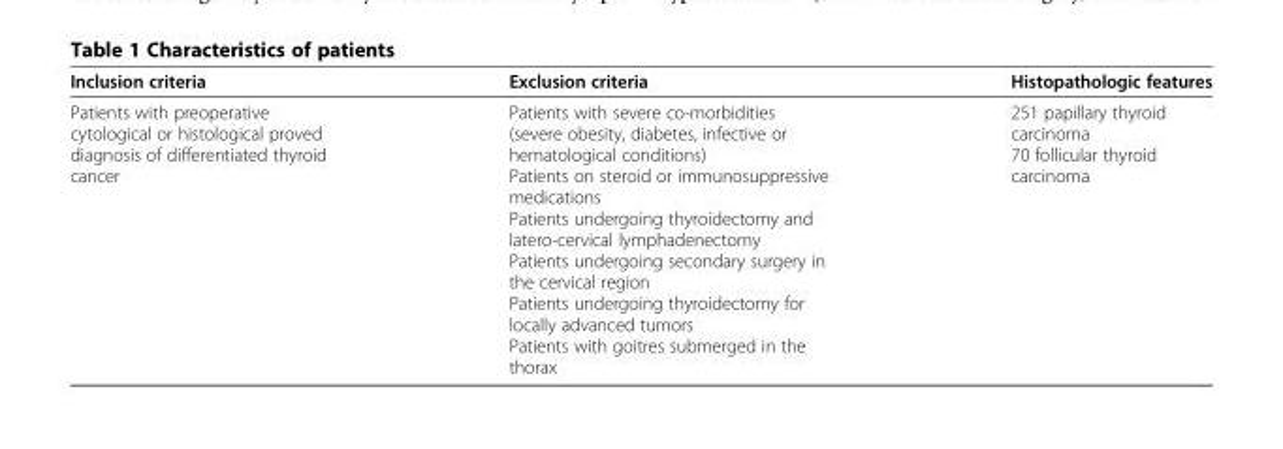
<table><thead><tr><td>Inclusion criteria</td><td>Exclusion criteria</td><td>Histopathologic features</td></tr></thead><tbody><tr><td>Patients with preoperative cytological or histological proved diagnosis of differentiated thyroid cancer</td><td>Patients with severe co-morbidities (severe obesity, diabetes, infective or hematological conditions) Patients on steroid or immunosuppressive medications Patients undergoing thyroidectomy and latero-cervical lymphadenectomy Patients undergoing secondary surgery in the cervical region Patients undergoing thyroidectomy for locally advanced tumors Patients with goitres submerged in the thorax</td><td>251 papillary thyroid carcinoma 70 follicular thyroid carcinoma</td></tr></tbody></table>